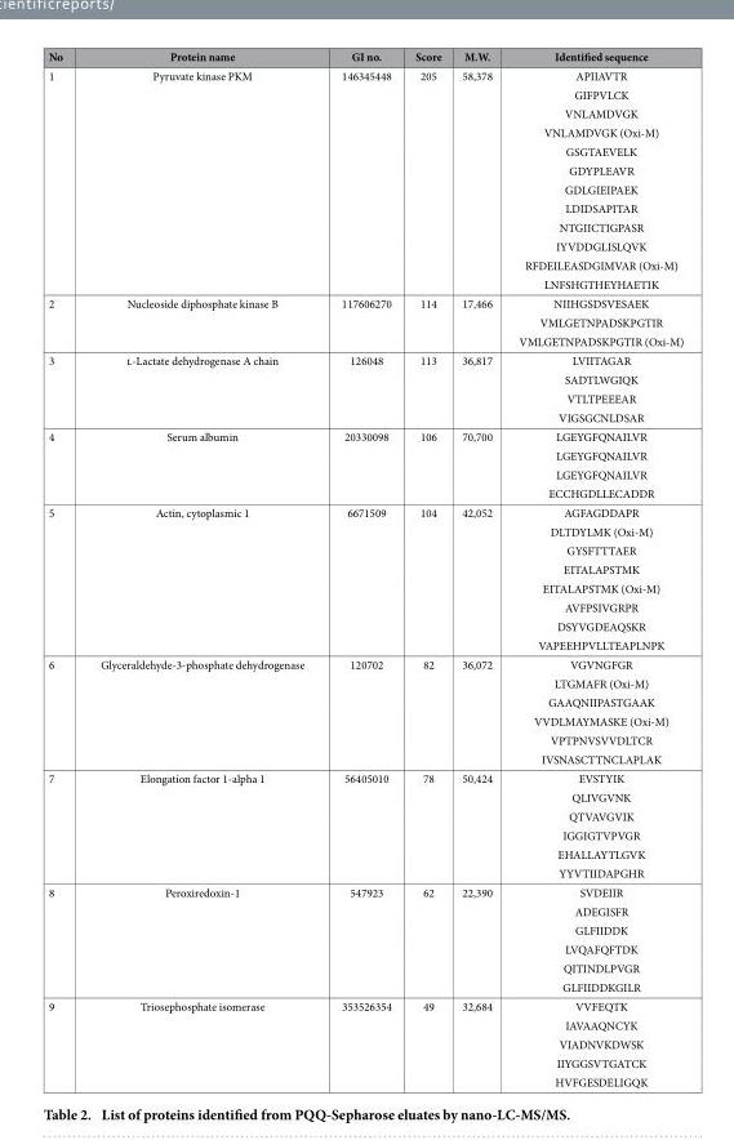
<table><thead><tr><td>No</td><td>Protein name</td><td>GI no.</td><td>Score</td><td>M.W.</td><td>Identified sequence</td></tr></thead><tbody><tr><td>1</td><td>Pyruvate kinase PKM</td><td>146345448</td><td>205</td><td>58,378</td><td>APIIAVTR GIFPVLCK VNLAMDVGK VNLAMDVGK (Oxi-M) GSGTAEVELK GDYPLEAVR GDLGIEIPAEK LDIDSAPITAR NTGIICTIGPASR IYVDDGLISLQVK RFDEILEASDGIMVAR (Oxi-M) LNFSHGTHEYHAETIK</td></tr><tr><td>2</td><td>Nucleoside diphosphate kinase B</td><td>117606270</td><td>114</td><td>17,466</td><td>NIIHGSDSVESAEK VMLGETNPADSKPGTIR VMLGETNPADSKPGTIR (Oxi-M)</td></tr><tr><td>3</td><td>l-Lactate dehydrogenase A chain</td><td>126048</td><td>113</td><td>36,817</td><td>LVIITAGAR SADTLWGIQK VTLTPEEEAR VIGSGCNLDSAR</td></tr><tr><td>4</td><td>Serum albumin</td><td>20330098</td><td>106</td><td>70,700</td><td>LGEYGFQNAILVR LGEYGFQNAILVR LGEYGFQNAILVR ECCHGDLLECADDR</td></tr><tr><td>5</td><td>Actin, cytoplasmic 1</td><td>6671509</td><td>104</td><td>42,052</td><td>AGFAGDDAPR DLTDYLMK (Oxi-M) GYSFTTTAER EITALAPSTMK EITALAPSTMK (Oxi-M) AVFPSIVGRPR DSYVGDEAQSKR VAPEEHPVLLTEAPLNPK</td></tr><tr><td>6</td><td>Glyceraldehyde-3-phosphate dehydrogenase</td><td>120702</td><td>82</td><td>36,072</td><td>VGVNGFGR LTGMAFR (Oxi-M) GAAQNIIPASTGAAK VVDLMAYMASKE (Oxi-M) VPTPNVSVVDLTCR IVSNASCTTNCLAPLAK</td></tr><tr><td>7</td><td>Elongation factor 1-alpha 1</td><td>56405010</td><td>78</td><td>50,424</td><td>EVSTYIK QLIVGVNK QTVAVGVIK IGGIGTVPVGR EHALLAYTLGVK YYVTIIDAPGHR</td></tr><tr><td>8</td><td>Peroxiredoxin-1</td><td>547923</td><td>62</td><td>22,390</td><td>SVDEIIR ADEGISFR GLFIIDDK LVQAFQFTDK QITINDLPVGR GLFIIDDKGILR</td></tr><tr><td>9</td><td>Triosephosphate isomerase</td><td>353526354</td><td>49</td><td>32,684</td><td>VVFEQTK IAVAAQNCYK VIADNVKDWSK IIYGGSVTGATCK HVFGESDELIGQK</td></tr></tbody></table>